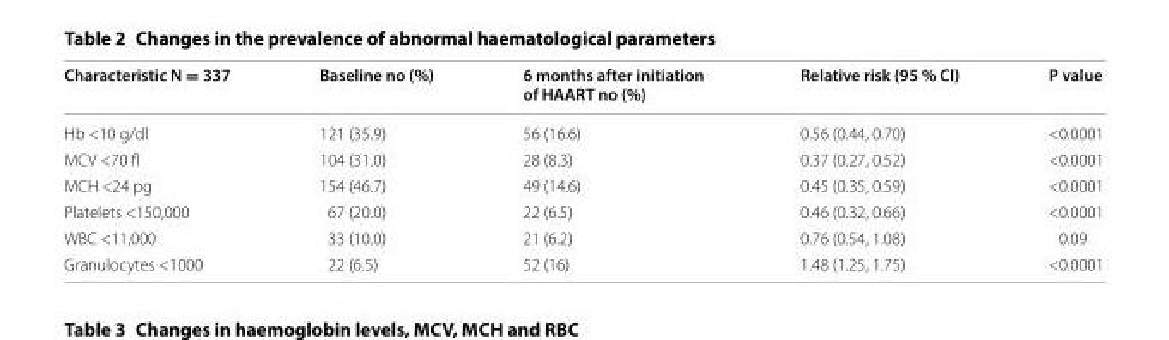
<table><thead><tr><td>Characteristic N = 337</td><td>Baseline no (%)</td><td>6 months after initiation of HAART no (%)</td><td>Relative risk (95 % CI)</td><td>P value</td></tr></thead><tbody><tr><td>Hb &lt;10 g/dl</td><td>121 (35.9)</td><td>56 (16.6)</td><td>0.56 (0.44, 0.70)</td><td>&lt;0.0001</td></tr><tr><td>MCV &lt;70 fl</td><td>104 (31.0)</td><td>28 (8.3)</td><td>0.37 (0.27, 0.52)</td><td>&lt;0.0001</td></tr><tr><td>MCH &lt;24 pg</td><td>154 (46.7)</td><td>49 (14.6)</td><td>0.45 (0.35, 0.59)</td><td>&lt;0.0001</td></tr><tr><td>Platelets &lt;150,000</td><td>67 (20.0)</td><td>22 (6.5)</td><td>0.46 (0.32, 0.66)</td><td>&lt;0.0001</td></tr><tr><td>WBC &lt;11,000</td><td>33 (10.0)</td><td>21 (6.2)</td><td>0.76 (0.54, 1.08)</td><td>0.09</td></tr><tr><td>Granulocytes &lt;1000</td><td>22 (6.5)</td><td>52 (16)</td><td>1.48 (1.25, 1.75)</td><td>&lt;0.0001</td></tr></tbody></table>